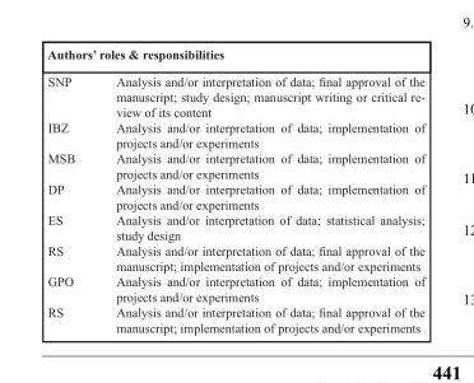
<table><thead><tr><td colspan="2">Authors’ roles &amp; responsibilities</td></tr><tr><td>SNP</td><td>Analysis and/or interpretation of data; final approval of the manuscript; study design; manuscript writing or critical re- view of its content</td></tr></thead><tbody><tr><td>IBZ</td><td>Analysis and/or interpretation of data; implementation of projects and/or experiments</td></tr><tr><td>MSB</td><td>Analysis and/or interpretation of data; implementation of projects and/or experiments</td></tr><tr><td>DP</td><td>Analysis and/or interpretation of data; implementation of projects and/or experiments</td></tr><tr><td>ES</td><td>Analysis and/or interpretation of data; statistical analysis; study design</td></tr><tr><td>RS</td><td>Analysis and/or interpretation of data; final approval of the manuscript; implementation of projects and/or experiments</td></tr><tr><td>GPO</td><td>Analysis and/or interpretation of data; implementation of projects and/or experiments</td></tr><tr><td>RS</td><td>Analysis and/or interpretation of data; final approval of the manuscript; implementation of projects and/or experiments</td></tr></tbody></table>